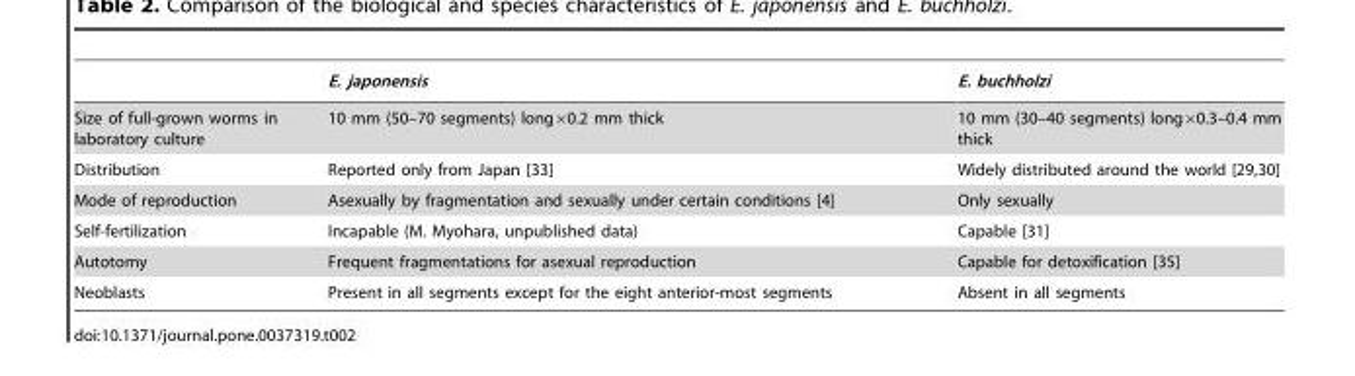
<table><thead><tr><td></td><td>E. japonensis</td><td>E. buchholzi</td></tr></thead><tbody><tr><td>Size of full-grown worms in laboratory culture</td><td>10 mm (50–70 segments) long×0.2 mm thick</td><td>10 mm (30–40 segments) long×0.3–0.4 mm thick</td></tr><tr><td>Distribution</td><td>Reported only from Japan [33]</td><td>Widely distributed around the world [29,30]</td></tr><tr><td>Mode of reproduction</td><td>Asexually by fragmentation and sexually under certain conditions [4]</td><td>Only sexually</td></tr><tr><td>Self-fertilization</td><td>Incapable (M. Myohara, unpublished data)</td><td>Capable [31]</td></tr><tr><td>Autotomy</td><td>Frequent fragmentations for asexual reproduction</td><td>Capable for detoxification [35]</td></tr><tr><td>Neoblasts</td><td>Present in all segments except for the eight anterior-most segments</td><td>Absent in all segments</td></tr></tbody></table>